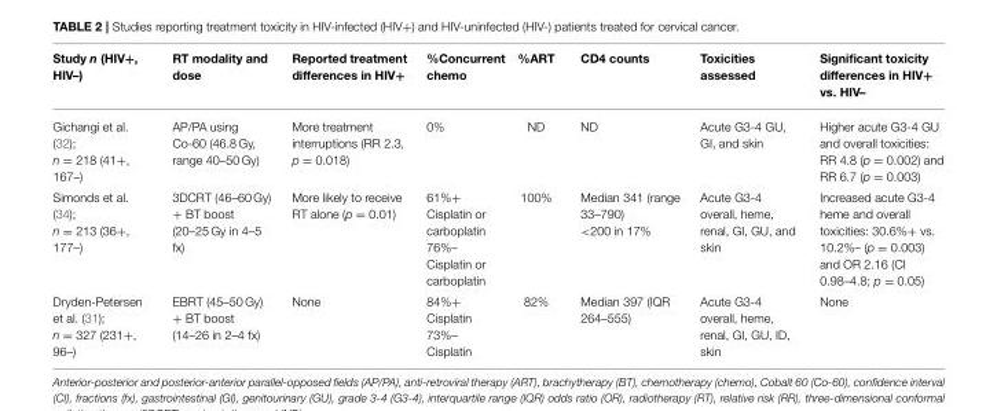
<table><thead><tr><td>Study n (HIV+, HIV–)</td><td>RT modality and dose</td><td>Reported treatment differences in HIV+</td><td>%Concurrent chemo</td><td>%ART</td><td>CD4 counts</td><td>Toxicities assessed</td><td>Significant toxicity differences in HIV+ vs. HIV–</td></tr></thead><tbody><tr><td>Gichangi et al. (32); n = 218 (41+, 167–)</td><td>AP/PA using Co-60 (46.8 Gy, range 40–50 Gy)</td><td>More treatment interruptions (RR 2.3, p = 0.018)</td><td>0%</td><td>ND</td><td>ND</td><td>Acute G3-4 GU, GI, and skin</td><td>Higher acute G3-4 GU and overall toxicities: RR 4.8 (p = 0.002) and RR 6.7 (p = 0.003)</td></tr><tr><td>Simonds et al. (34); n = 213 (36+, 177–)</td><td>3DCRT (46–60 Gy) + BT boost (20–25 Gy in 4–5 fx)</td><td>More likely to receive RT alone (p = 0.01)</td><td>61%+ Cisplatin or carboplatin 76%– Cisplatin or carboplatin</td><td>100%</td><td>Median 341 (range 33–790) &lt;200 in 17%</td><td>Acute G3-4 overall, heme, renal, GI, GU, and skin</td><td>Increased acute G3-4 heme and overall toxicities: 30.6%+ vs. 10.2%– (p = 0.003) and OR 2.16 (CI 0.98–4.8; p = 0.05)</td></tr><tr><td>Dryden-Petersen et al. (31); n = 327 (231+, 96–)</td><td>EBRT (45–50 Gy) + BT boost (14–26 in 2–4 fx)</td><td>None</td><td>84%+ Cisplatin 73%– Cisplatin</td><td>82%</td><td>Median 397 (IQR 264–555)</td><td>Acute G3-4 overall, heme, renal, GI, GU, ID, skin</td><td>None</td></tr></tbody></table>